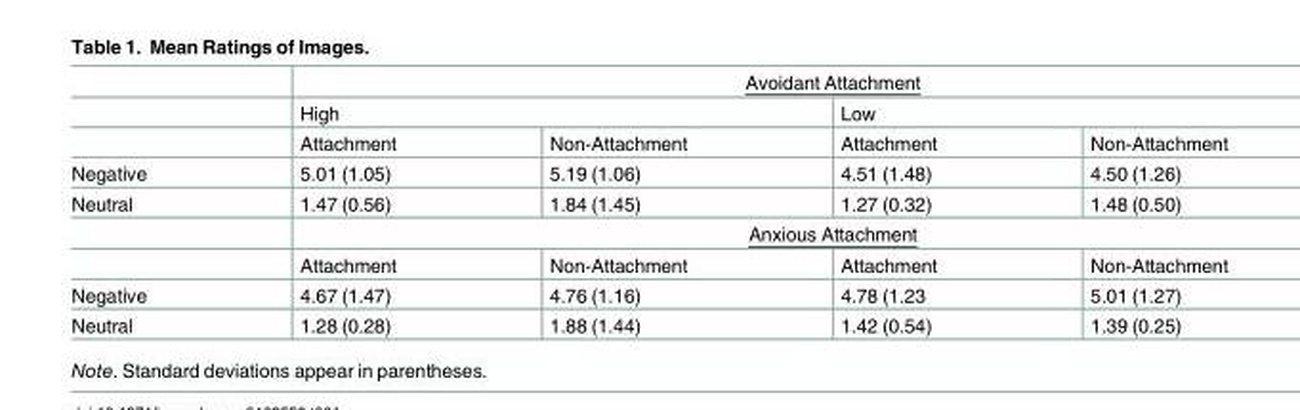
<table><thead><tr><td rowspan="3"></td><td colspan="4">Avoidant Attachment</td></tr><tr><td colspan="2">High</td><td colspan="2">Low</td></tr><tr><td>Attachment</td><td>Non-Attachment</td><td>Attachment</td><td>Non-Attachment</td></tr></thead><tbody><tr><td>Negative</td><td>5.01 (1.05)</td><td>5.19 (1.06)</td><td>4.51 (1.48)</td><td>4.50 (1.26)</td></tr><tr><td rowspan="3">Neutral</td><td>1.47 (0.56)</td><td>1.84 (1.45)</td><td>1.27 (0.32)</td><td>1.48 (0.50)</td></tr><tr><td colspan="4">Anxious Attachment</td></tr><tr><td>Attachment</td><td>Non-Attachment</td><td>Attachment</td><td>Non-Attachment</td></tr><tr><td>Negative</td><td>4.67 (1.47)</td><td>4.76 (1.16)</td><td>4.78 (1.23</td><td>5.01 (1.27)</td></tr><tr><td>Neutral</td><td>1.28 (0.28)</td><td>1.88 (1.44)</td><td>1.42 (0.54)</td><td>1.39 (0.25)</td></tr></tbody></table>